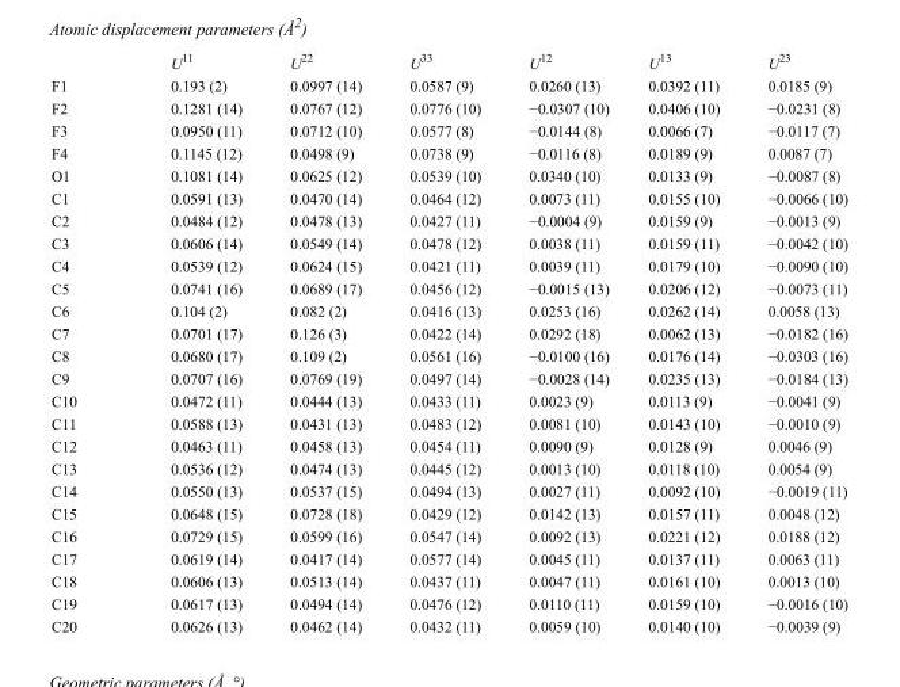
<table><thead><tr><td></td><td>U<sup>11</sup></td><td>U<sup>22</sup></td><td>U<sup>33</sup></td><td>U<sup>12</sup></td><td>U<sup>13</sup></td><td>U<sup>23</sup></td></tr></thead><tbody><tr><td>F1</td><td>0.193 (2)</td><td>0.0997 (14)</td><td>0.0587 (9)</td><td>0.0260 (13)</td><td>0.0392 (11)</td><td>0.0185 (9)</td></tr><tr><td>F2</td><td>0.1281 (14)</td><td>0.0767 (12)</td><td>0.0776 (10)</td><td>−0.0307 (10)</td><td>0.0406 (10)</td><td>−0.0231 (8)</td></tr><tr><td>F3</td><td>0.0950 (11)</td><td>0.0712 (10)</td><td>0.0577 (8)</td><td>−0.0144 (8)</td><td>0.0066 (7)</td><td>−0.0117 (7)</td></tr><tr><td>F4</td><td>0.1145 (12)</td><td>0.0498 (9)</td><td>0.0738 (9)</td><td>−0.0116 (8)</td><td>0.0189 (9)</td><td>0.0087 (7)</td></tr><tr><td>O1</td><td>0.1081 (14)</td><td>0.0625 (12)</td><td>0.0539 (10)</td><td>0.0340 (10)</td><td>0.0133 (9)</td><td>−0.0087 (8)</td></tr><tr><td>C1</td><td>0.0591 (13)</td><td>0.0470 (14)</td><td>0.0464 (12)</td><td>0.0073 (11)</td><td>0.0155 (10)</td><td>−0.0066 (10)</td></tr><tr><td>C2</td><td>0.0484 (12)</td><td>0.0478 (13)</td><td>0.0427 (11)</td><td>−0.0004 (9)</td><td>0.0159 (9)</td><td>−0.0013 (9)</td></tr><tr><td>C3</td><td>0.0606 (14)</td><td>0.0549 (14)</td><td>0.0478 (12)</td><td>0.0038 (11)</td><td>0.0159 (11)</td><td>−0.0042 (10)</td></tr><tr><td>C4</td><td>0.0539 (12)</td><td>0.0624 (15)</td><td>0.0421 (11)</td><td>0.0039 (11)</td><td>0.0179 (10)</td><td>−0.0090 (10)</td></tr><tr><td>C5</td><td>0.0741 (16)</td><td>0.0689 (17)</td><td>0.0456 (12)</td><td>−0.0015 (13)</td><td>0.0206 (12)</td><td>−0.0073 (11)</td></tr><tr><td>C6</td><td>0.104 (2)</td><td>0.082 (2)</td><td>0.0416 (13)</td><td>0.0253 (16)</td><td>0.0262 (14)</td><td>0.0058 (13)</td></tr><tr><td>C7</td><td>0.0701 (17)</td><td>0.126 (3)</td><td>0.0422 (14)</td><td>0.0292 (18)</td><td>0.0062 (13)</td><td>−0.0182 (16)</td></tr><tr><td>C8</td><td>0.0680 (17)</td><td>0.109 (2)</td><td>0.0561 (16)</td><td>−0.0100 (16)</td><td>0.0176 (14)</td><td>−0.0303 (16)</td></tr><tr><td>C9</td><td>0.0707 (16)</td><td>0.0769 (19)</td><td>0.0497 (14)</td><td>−0.0028 (14)</td><td>0.0235 (13)</td><td>−0.0184 (13)</td></tr><tr><td>C10</td><td>0.0472 (11)</td><td>0.0444 (13)</td><td>0.0433 (11)</td><td>0.0023 (9)</td><td>0.0113 (9)</td><td>−0.0041 (9)</td></tr><tr><td>C11</td><td>0.0588 (13)</td><td>0.0431 (13)</td><td>0.0483 (12)</td><td>0.0081 (10)</td><td>0.0143 (10)</td><td>−0.0010 (9)</td></tr><tr><td>C12</td><td>0.0463 (11)</td><td>0.0458 (13)</td><td>0.0454 (11)</td><td>0.0090 (9)</td><td>0.0128 (9)</td><td>0.0046 (9)</td></tr><tr><td>C13</td><td>0.0536 (12)</td><td>0.0474 (13)</td><td>0.0445 (12)</td><td>0.0013 (10)</td><td>0.0118 (10)</td><td>0.0054 (9)</td></tr><tr><td>C14</td><td>0.0550 (13)</td><td>0.0537 (15)</td><td>0.0494 (13)</td><td>0.0027 (11)</td><td>0.0092 (10)</td><td>−0.0019 (11)</td></tr><tr><td>C15</td><td>0.0648 (15)</td><td>0.0728 (18)</td><td>0.0429 (12)</td><td>0.0142 (13)</td><td>0.0157 (11)</td><td>0.0048 (12)</td></tr><tr><td>C16</td><td>0.0729 (15)</td><td>0.0599 (16)</td><td>0.0547 (14)</td><td>0.0092 (13)</td><td>0.0221 (12)</td><td>0.0188 (12)</td></tr><tr><td>C17</td><td>0.0619 (14)</td><td>0.0417 (14)</td><td>0.0577 (14)</td><td>0.0045 (11)</td><td>0.0137 (11)</td><td>0.0063 (11)</td></tr><tr><td>C18</td><td>0.0606 (13)</td><td>0.0513 (14)</td><td>0.0437 (11)</td><td>0.0047 (11)</td><td>0.0161 (10)</td><td>0.0013 (10)</td></tr><tr><td>C19</td><td>0.0617 (13)</td><td>0.0494 (14)</td><td>0.0476 (12)</td><td>0.0110 (11)</td><td>0.0159 (10)</td><td>−0.0016 (10)</td></tr><tr><td>C20</td><td>0.0626 (13)</td><td>0.0462 (14)</td><td>0.0432 (11)</td><td>0.0059 (10)</td><td>0.0140 (10)</td><td>−0.0039 (9)</td></tr></tbody></table>